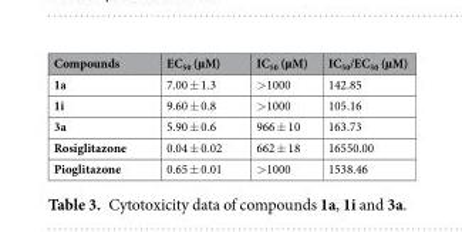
<table><thead><tr><td>Compounds</td><td>EC<sub>50</sub> (µM)</td><td>IC<sub>50</sub> (µM)</td><td>IC<sub>50</sub>/EC<sub>50</sub> (µM)</td></tr></thead><tbody><tr><td>1a</td><td>7.00 ± 1.3</td><td>&gt;1000</td><td>142.85</td></tr><tr><td>1i</td><td>9.60 ± 0.8</td><td>&gt;1000</td><td>105.16</td></tr><tr><td>3a</td><td>5.90 ± 0.6</td><td>966 ± 10</td><td>163.73</td></tr><tr><td>Rosiglitazone</td><td>0.04 ± 0.02</td><td>662 ± 18</td><td>16550.00</td></tr><tr><td>Pioglitazone</td><td>0.65 ± 0.01</td><td>&gt;1000</td><td>1538.46</td></tr></tbody></table>